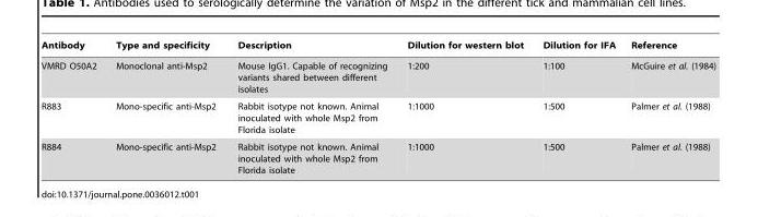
<table><thead><tr><td>Antibody</td><td>Type and specificity</td><td>Description</td><td>Dilution for western blot</td><td>Dilution for IFA</td><td>Reference</td></tr></thead><tbody><tr><td>VMRD O50A2</td><td>Monoclonal anti-Msp2</td><td>Mouse IgG1. Capable of recognizing variants shared between different isolates</td><td>1:200</td><td>1:100</td><td>McGuire et al. (1984)</td></tr><tr><td>R883</td><td>Mono-specific anti-Msp2</td><td>Rabbit isotype not known. Animal inoculated with whole Msp2 from Florida isolate</td><td>1:1000</td><td>1:500</td><td>Palmer et al. (1988)</td></tr><tr><td>R884</td><td>Mono-specific anti-Msp2</td><td>Rabbit isotype not known. Animal inoculated with whole Msp2 from Florida isolate</td><td>1:1000</td><td>1:500</td><td>Palmer et al. (1988)</td></tr></tbody></table>